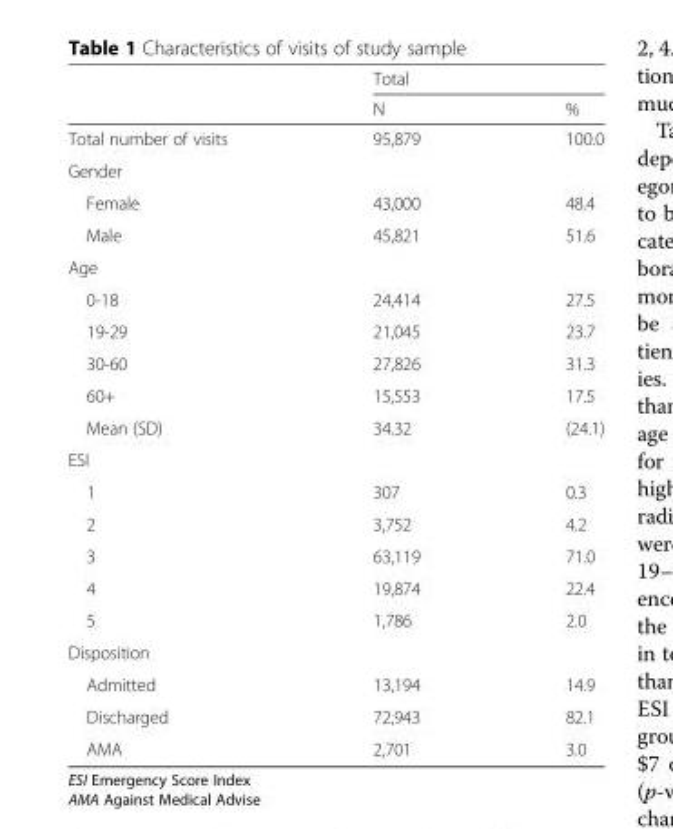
<table><thead><tr><td rowspan="2"></td><td colspan="2">Total</td></tr><tr><td>N</td><td>%</td></tr></thead><tbody><tr><td>Total number of visits</td><td>95,879</td><td>100.0</td></tr><tr><td colspan="3">Gender</td></tr><tr><td>Female</td><td>43,000</td><td>48.4</td></tr><tr><td>Male</td><td>45,821</td><td>51.6</td></tr><tr><td colspan="3">Age</td></tr><tr><td>0-18</td><td>24,414</td><td>27.5</td></tr><tr><td>19-29</td><td>21,045</td><td>23.7</td></tr><tr><td>30-60</td><td>27,826</td><td>31.3</td></tr><tr><td>60+</td><td>15,553</td><td>17.5</td></tr><tr><td>Mean (SD)</td><td>34.32</td><td>(24.1)</td></tr><tr><td colspan="3">ESI</td></tr><tr><td>1</td><td>307</td><td>0.3</td></tr><tr><td>2</td><td>3,752</td><td>4.2</td></tr><tr><td>3</td><td>63,119</td><td>71.0</td></tr><tr><td>4</td><td>19,874</td><td>22.4</td></tr><tr><td>5</td><td>1,786</td><td>2.0</td></tr><tr><td colspan="3">Disposition</td></tr><tr><td>Admitted</td><td>13,194</td><td>14.9</td></tr><tr><td>Discharged</td><td>72,943</td><td>82.1</td></tr><tr><td>AMA</td><td>2,701</td><td>3.0</td></tr></tbody></table>